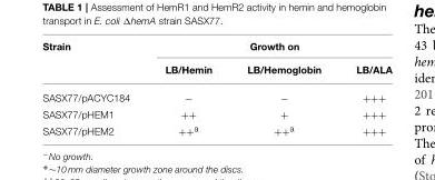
<table><thead><tr><td rowspan="2">Strain</td><td colspan="3">Growth on</td></tr><tr><td>LB/Hemin</td><td>LB/Hemoglobin</td><td>LB/ALA</td></tr></thead><tbody><tr><td>SASX77/pACYC184</td><td>−</td><td>−</td><td>+++</td></tr><tr><td>SASX77/pHEM1</td><td>++</td><td>+</td><td>+++</td></tr><tr><td>SASX77/pHEM2</td><td>++<sup>a</sup></td><td>++<sup>a</sup></td><td>+++</td></tr></tbody></table>